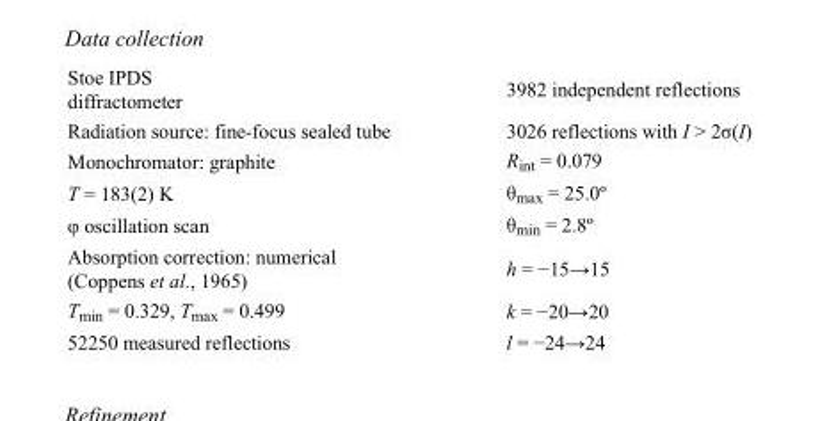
<table><tbody><tr><td>Stoe IPDS diffractometer</td><td>3982 independent reflections</td></tr><tr><td>Radiation source: fine-focus sealed tube</td><td>3026 reflections with I &gt; 2σ(I)</td></tr><tr><td>Monochromator: graphite</td><td>R<sub>int</sub> = 0.079</td></tr><tr><td>T = 183(2) K</td><td>θ<sub>max</sub> = 25.0º</td></tr><tr><td>φ oscillation scan</td><td>θ<sub>min</sub> = 2.8º</td></tr><tr><td>Absorption correction: numerical (Coppens et al., 1965)</td><td>h = −15→15</td></tr><tr><td>T<sub>min</sub> = 0.329, T<sub>max</sub> = 0.499</td><td>k = −20→20</td></tr><tr><td>52250 measured reflections</td><td>l = −24→24</td></tr></tbody></table>